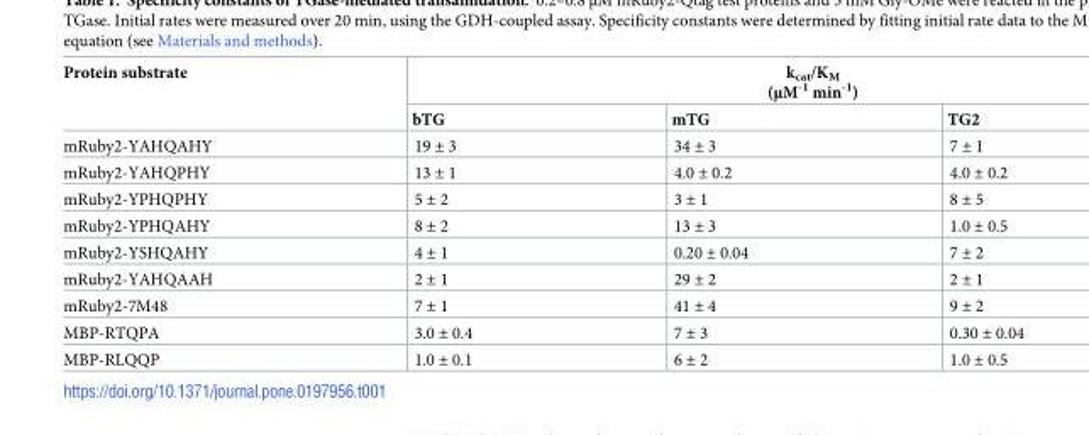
<table><thead><tr><td rowspan="2">Protein substrate</td><td colspan="3">k<sub>cat</sub>/K<sub>M</sub> (μM<sup>-1</sup> min<sup>-1</sup>)</td></tr><tr><td>bTG</td><td>mTG</td><td>TG2</td></tr></thead><tbody><tr><td>mRuby2-YAHQAHY</td><td>19 ± 3</td><td>34 ± 3</td><td>7 ± 1</td></tr><tr><td>mRuby2-YAHQPHY</td><td>13 ± 1</td><td>4.0 ± 0.2</td><td>4.0 ± 0.2</td></tr><tr><td>mRuby2-YPHQPHY</td><td>5 ± 2</td><td>3 ± 1</td><td>8 ± 5</td></tr><tr><td>mRuby2-YPHQAHY</td><td>8 ± 2</td><td>13 ± 3</td><td>1.0 ± 0.5</td></tr><tr><td>mRuby2-YSHQAHY</td><td>4 ± 1</td><td>0.20 ± 0.04</td><td>7 ± 2</td></tr><tr><td>mRuby2-YAHQAAH</td><td>2 ± 1</td><td>29 ± 2</td><td>2 ± 1</td></tr><tr><td>mRuby2-7M48</td><td>7 ± 1</td><td>41 ± 4</td><td>9 ± 2</td></tr><tr><td>MBP-RTQPA</td><td>3.0 ± 0.4</td><td>7 ± 3</td><td>0.30 ± 0.04</td></tr><tr><td>MBP-RLQQP</td><td>1.0 ± 0.1</td><td>6 ± 2</td><td>1.0 ± 0.5</td></tr></tbody></table>